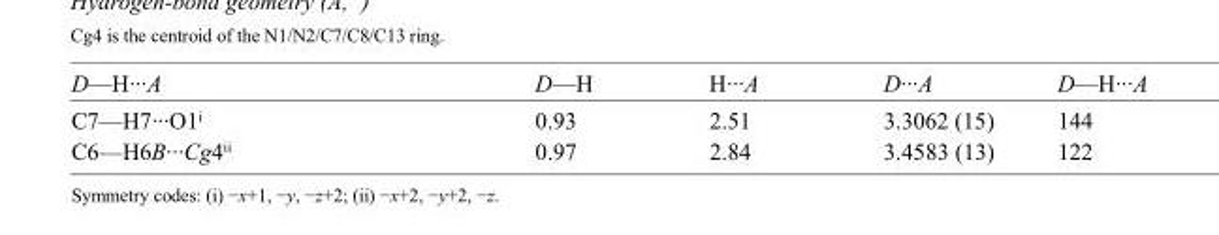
<table><tbody><tr><td>D—H···A</td><td>D—H</td><td>H···A</td><td>D···A</td><td>D—H···A</td></tr><tr><td>C7—H7···O1<sup>i</sup></td><td>0.93</td><td>2.51</td><td>3.3062 (15)</td><td>144</td></tr><tr><td>C6—H6B···Cg4<sup>ii</sup></td><td>0.97</td><td>2.84</td><td>3.4583 (13)</td><td>122</td></tr></tbody></table>